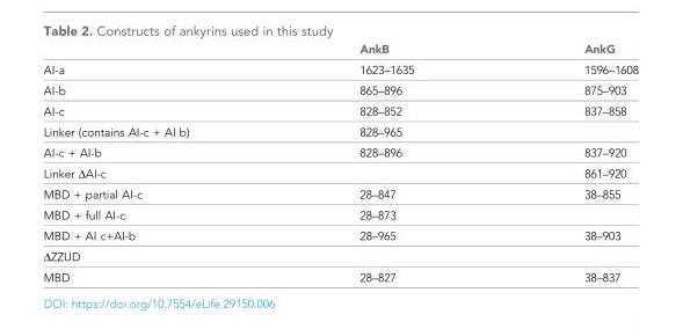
<table><thead><tr><td></td><td>AnkB</td><td>AnkG</td></tr></thead><tbody><tr><td>AI-a</td><td>1623–1635</td><td>1596–1608</td></tr><tr><td>AI-b</td><td>865–896</td><td>875–903</td></tr><tr><td>AI-c</td><td>828–852</td><td>837–858</td></tr><tr><td>Linker (contains AI-c + AI b)</td><td>828–965</td><td></td></tr><tr><td>AI-c + AI-b</td><td>828–896</td><td>837–920</td></tr><tr><td>Linker ΔAI-c</td><td></td><td>861–920</td></tr><tr><td>MBD + partial AI-c</td><td>28–847</td><td>38–855</td></tr><tr><td>MBD + full AI-c</td><td>28–873</td><td></td></tr><tr><td>MBD + AI c+AI-b</td><td>28–965</td><td>38–903</td></tr><tr><td colspan="3">ΔZZUD</td></tr><tr><td>MBD</td><td>28–827</td><td>38–837</td></tr></tbody></table>